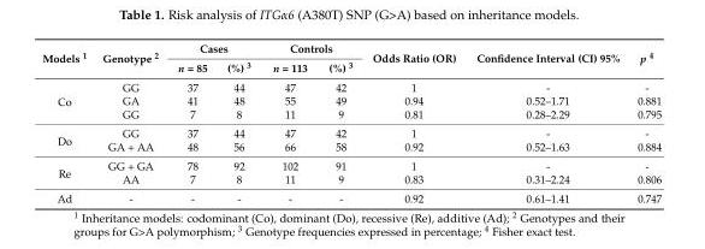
<table><thead><tr><td rowspan="2">Models <sup>1</sup></td><td rowspan="2">Genotype <sup>2</sup></td><td colspan="2">Cases</td><td colspan="2">Controls</td><td rowspan="2">Odds Ratio (OR)</td><td rowspan="2">Confidence Interval (CI) 95%</td><td rowspan="2">p <sup>4</sup></td></tr><tr><td>n = 85</td><td>(%) <sup>3</sup></td><td>n = 113</td><td>(%) <sup>3</sup></td></tr></thead><tbody><tr><td rowspan="3">Co</td><td>GG</td><td>37</td><td>44</td><td>47</td><td>42</td><td>1</td><td>-</td><td>-</td></tr><tr><td>GA</td><td>41</td><td>48</td><td>55</td><td>49</td><td>0.94</td><td>0.52–1.71</td><td>0.881</td></tr><tr><td>GG</td><td>7</td><td>8</td><td>11</td><td>9</td><td>0.81</td><td>0.28–2.29</td><td>0.795</td></tr><tr><td rowspan="2">Do</td><td>GG</td><td>37</td><td>44</td><td>47</td><td>42</td><td>1</td><td>-</td><td>-</td></tr><tr><td>GA + AA</td><td>48</td><td>56</td><td>66</td><td>58</td><td>0.92</td><td>0.52–1.63</td><td>0.884</td></tr><tr><td rowspan="2">Re</td><td>GG + GA</td><td>78</td><td>92</td><td>102</td><td>91</td><td>1</td><td>-</td><td>-</td></tr><tr><td>AA</td><td>7</td><td>8</td><td>11</td><td>9</td><td>0.83</td><td>0.31–2.24</td><td>0.806</td></tr><tr><td>Ad</td><td>-</td><td>-</td><td>-</td><td>-</td><td>-</td><td>0.92</td><td>0.61–1.41</td><td>0.747</td></tr></tbody></table>